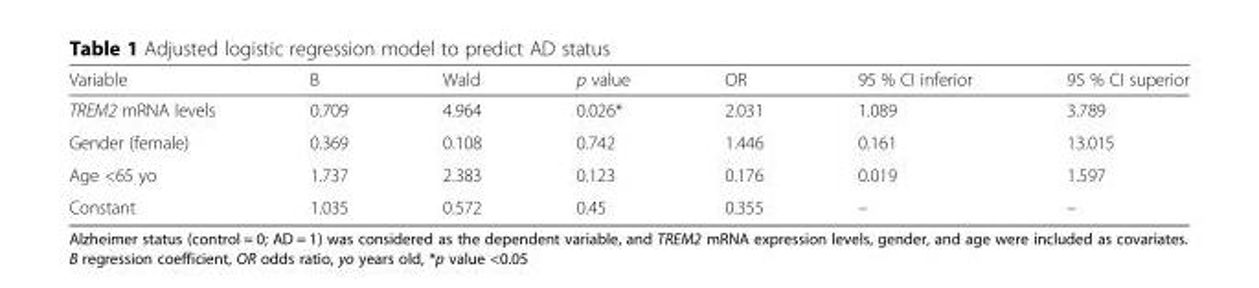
<table><thead><tr><td>Variable</td><td>B</td><td>Wald</td><td>p value</td><td>OR</td><td>95 % CI inferior</td><td>95 % CI superior</td></tr></thead><tbody><tr><td>TREM2 mRNA levels</td><td>0.709</td><td>4.964</td><td>0.026*</td><td>2.031</td><td>1.089</td><td>3.789</td></tr><tr><td>Gender (female)</td><td>0.369</td><td>0.108</td><td>0.742</td><td>1.446</td><td>0.161</td><td>13.015</td></tr><tr><td>Age &lt;65 yo</td><td>1.737</td><td>2.383</td><td>0.123</td><td>0.176</td><td>0.019</td><td>1.597</td></tr><tr><td>Constant</td><td>1.035</td><td>0.572</td><td>0.45</td><td>0.355</td><td>–</td><td>–</td></tr></tbody></table>